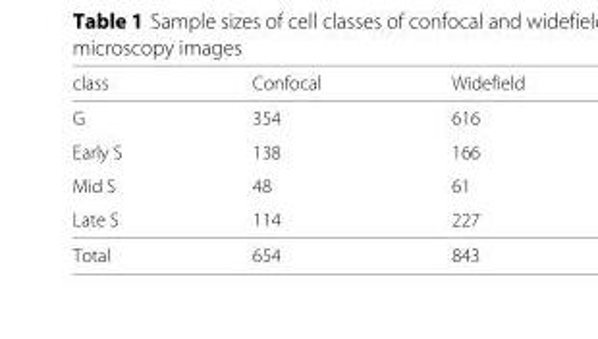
<table><thead><tr><td>class</td><td>Confocal</td><td>Widefield</td></tr></thead><tbody><tr><td>G</td><td>354</td><td>616</td></tr><tr><td>Early S</td><td>138</td><td>166</td></tr><tr><td>Mid S</td><td>48</td><td>61</td></tr><tr><td>Late S</td><td>114</td><td>227</td></tr><tr><td>Total</td><td>654</td><td>843</td></tr></tbody></table>